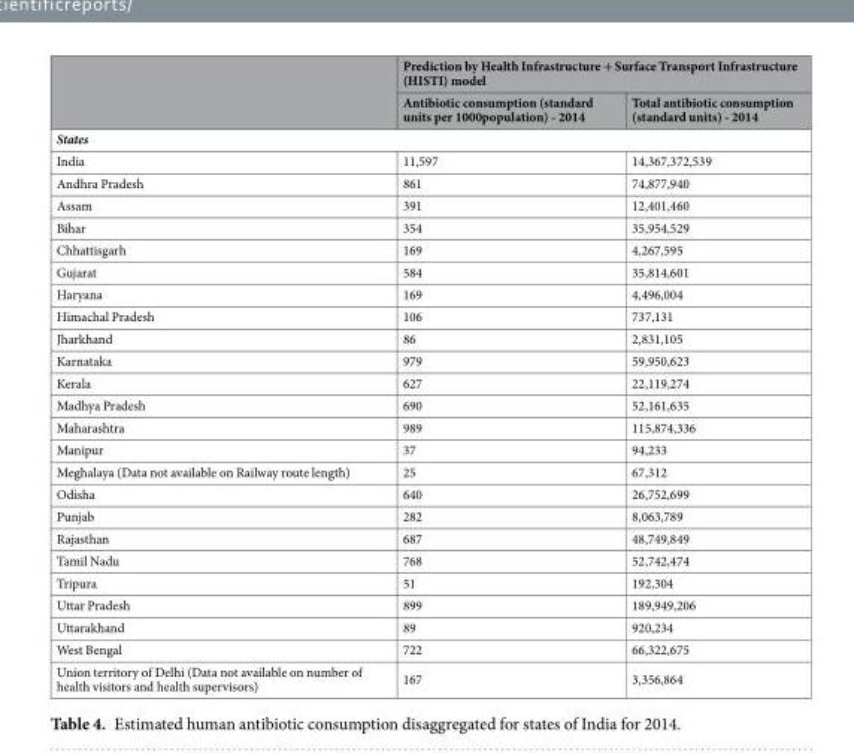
<table><thead><tr><td rowspan="2"></td><td colspan="2">Prediction by Health Infrastructure + Surface Transport Infrastructure (HISTI) model</td></tr><tr><td>Antibiotic consumption (standard units per 1000population) - 2014</td><td>Total antibiotic consumption (standard units) - 2014</td></tr></thead><tbody><tr><td colspan="3">States</td></tr><tr><td>India</td><td>11,597</td><td>14,367,372,539</td></tr><tr><td>Andhra Pradesh</td><td>861</td><td>74,877,940</td></tr><tr><td>Assam</td><td>391</td><td>12,401,460</td></tr><tr><td>Bihar</td><td>354</td><td>35,954,529</td></tr><tr><td>Chhattisgarh</td><td>169</td><td>4,267,595</td></tr><tr><td>Gujarat</td><td>584</td><td>35,814,601</td></tr><tr><td>Haryana</td><td>169</td><td>4,496,004</td></tr><tr><td>Himachal Pradesh</td><td>106</td><td>737,131</td></tr><tr><td>Jharkhand</td><td>86</td><td>2,831,105</td></tr><tr><td>Karnataka</td><td>979</td><td>59,950,623</td></tr><tr><td>Kerala</td><td>627</td><td>22,119,274</td></tr><tr><td>Madhya Pradesh</td><td>690</td><td>52,161,635</td></tr><tr><td>Maharashtra</td><td>989</td><td>115,874,336</td></tr><tr><td>Manipur</td><td>37</td><td>94,233</td></tr><tr><td>Meghalaya (Data not available on Railway route length)</td><td>25</td><td>67,312</td></tr><tr><td>Odisha</td><td>640</td><td>26,752,699</td></tr><tr><td>Punjab</td><td>282</td><td>8,063,789</td></tr><tr><td>Rajasthan</td><td>687</td><td>48,749,849</td></tr><tr><td>Tamil Nadu</td><td>768</td><td>52,742,474</td></tr><tr><td>Tripura</td><td>51</td><td>192,304</td></tr><tr><td>Uttar Pradesh</td><td>899</td><td>189,949,206</td></tr><tr><td>Uttarakhand</td><td>89</td><td>920,234</td></tr><tr><td>West Bengal</td><td>722</td><td>66,322,675</td></tr><tr><td>Union territory of Delhi (Data not available on number of health visitors and health supervisors)</td><td>167</td><td>3,356,864</td></tr></tbody></table>